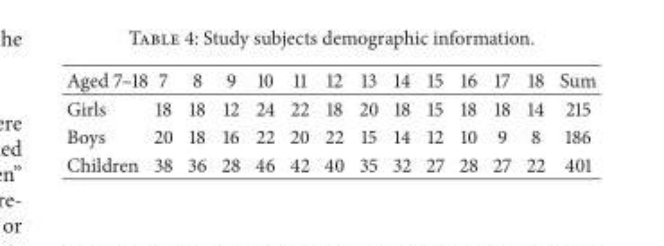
<table><thead><tr><td>Aged 7–18</td><td>7</td><td>8</td><td>9</td><td>10</td><td>11</td><td>12</td><td>13</td><td>14</td><td>15</td><td>16</td><td>17</td><td>18</td><td>Sum</td></tr></thead><tbody><tr><td>Girls</td><td>18</td><td>18</td><td>12</td><td>24</td><td>22</td><td>18</td><td>20</td><td>18</td><td>15</td><td>18</td><td>18</td><td>14</td><td>215</td></tr><tr><td>Boys</td><td>20</td><td>18</td><td>16</td><td>22</td><td>20</td><td>22</td><td>15</td><td>14</td><td>12</td><td>10</td><td>9</td><td>8</td><td>186</td></tr><tr><td>Children</td><td>38</td><td>36</td><td>28</td><td>46</td><td>42</td><td>40</td><td>35</td><td>32</td><td>27</td><td>28</td><td>27</td><td>22</td><td>401</td></tr></tbody></table>